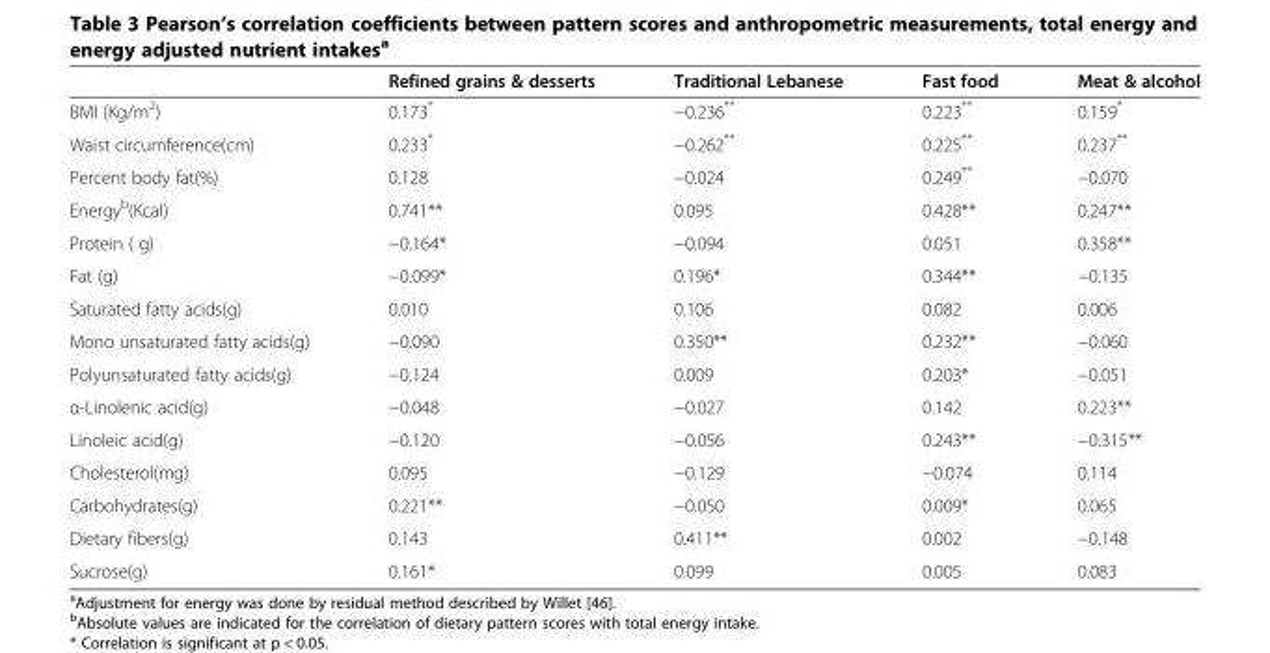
<table><thead><tr><td></td><td>Refined grains &amp; desserts</td><td>Traditional Lebanese</td><td>Fast food</td><td>Meat &amp; alcohol</td></tr></thead><tbody><tr><td>BMI (Kg/m<sup>2</sup>)</td><td>0.173*</td><td>−0.236**</td><td>0.223**</td><td>0.159*</td></tr><tr><td>Waist circumference(cm)</td><td>0.233*</td><td>−0.262**</td><td>0.225**</td><td>0.237**</td></tr><tr><td>Percent body fat(%)</td><td>0.128</td><td>−0.024</td><td>0.249**</td><td>−0.070</td></tr><tr><td>Energy<sup>b</sup>(Kcal)</td><td>0.741**</td><td>0.095</td><td>0.428**</td><td>0.247**</td></tr><tr><td>Protein ( g)</td><td>−0.164*</td><td>−0.094</td><td>0.051</td><td>0.358**</td></tr><tr><td>Fat (g)</td><td>−0.099*</td><td>0.196*</td><td>0.344**</td><td>−0.135</td></tr><tr><td>Saturated fatty acids(g)</td><td>0.010</td><td>0.106</td><td>0.082</td><td>0.006</td></tr><tr><td>Mono unsaturated fatty acids(g)</td><td>−0.090</td><td>0.350**</td><td>0.232**</td><td>−0.060</td></tr><tr><td>Polyunsaturated fatty acids(g)</td><td>−0.124</td><td>0.009</td><td>0.203*</td><td>−0.051</td></tr><tr><td>α-Linolenic acid(g)</td><td>−0.048</td><td>−0.027</td><td>0.142</td><td>0.223**</td></tr><tr><td>Linoleic acid(g)</td><td>−0.120</td><td>−0.056</td><td>0.243**</td><td>−0.315**</td></tr><tr><td>Cholesterol(mg)</td><td>0.095</td><td>−0.129</td><td>−0.074</td><td>0.114</td></tr><tr><td>Carbohydrates(g)</td><td>0.221**</td><td>−0.050</td><td>0.009*</td><td>0.065</td></tr><tr><td>Dietary fibers(g)</td><td>0.143</td><td>0.411**</td><td>0.002</td><td>−0.148</td></tr><tr><td>Sucrose(g)</td><td>0.161*</td><td>0.099</td><td>0.005</td><td>0.083</td></tr></tbody></table>